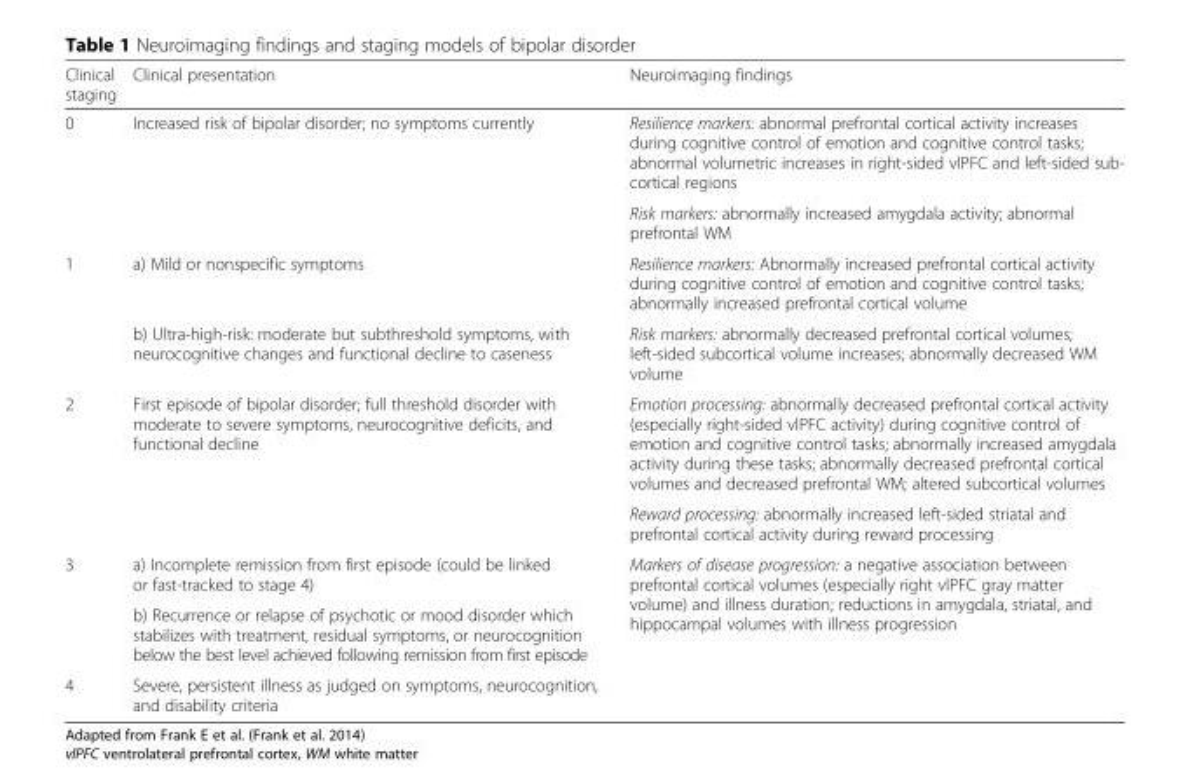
<table><thead><tr><td>Clinical staging</td><td>Clinical presentation</td><td>Neuroimaging findings</td></tr></thead><tbody><tr><td rowspan="2">0</td><td rowspan="2">Increased risk of bipolar disorder; no symptoms currently</td><td>Resilience markers: abnormal prefrontal cortical activity increases during cognitive control of emotion and cognitive control tasks; abnormal volumetric increases in right-sided vlPFC and left-sided sub- cortical regions</td></tr><tr><td>Risk markers: abnormally increased amygdala activity; abnormal prefrontal WM</td></tr><tr><td rowspan="2">1</td><td>a) Mild or nonspecific symptoms</td><td>Resilience markers: Abnormally increased prefrontal cortical activity during cognitive control of emotion and cognitive control tasks; abnormally increased prefrontal cortical volume</td></tr><tr><td>b) Ultra-high-risk: moderate but subthreshold symptoms, with neurocognitive changes and functional decline to caseness</td><td>Risk markers: abnormally decreased prefrontal cortical volumes; left-sided subcortical volume increases; abnormally decreased WM volume</td></tr><tr><td rowspan="2">2</td><td rowspan="2">First episode of bipolar disorder; full threshold disorder with moderate to severe symptoms, neurocognitive deficits, and functional decline</td><td>Emotion processing: abnormally decreased prefrontal cortical activity (especially right-sided vlPFC activity) during cognitive control of emotion and cognitive control tasks; abnormally increased amygdala activity during these tasks; abnormally decreased prefrontal cortical volumes and decreased prefrontal WM; altered subcortical volumes</td></tr><tr><td>Reward processing: abnormally increased left-sided striatal and prefrontal cortical activity during reward processing</td></tr><tr><td rowspan="2">3</td><td>a) Incomplete remission from first episode (could be linked or fast-tracked to stage 4)</td><td rowspan="2">Markers of disease progression: a negative association between prefrontal cortical volumes (especially right vlPFC gray matter volume) and illness duration; reductions in amygdala, striatal, and hippocampal volumes with illness progression</td></tr><tr><td>b) Recurrence or relapse of psychotic or mood disorder which stabilizes with treatment, residual symptoms, or neurocognition below the best level achieved following remission from first episode</td></tr><tr><td>4</td><td>Severe, persistent illness as judged on symptoms, neurocognition, and disability criteria</td><td></td></tr></tbody></table>